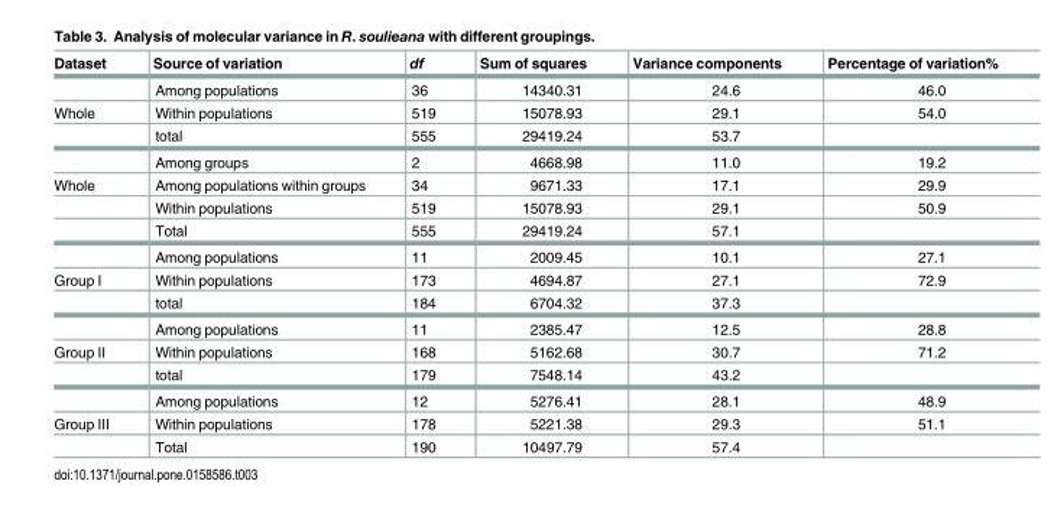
<table><thead><tr><td>Dataset</td><td>Source of variation</td><td>df</td><td>Sum of squares</td><td>Variance components</td><td>Percentage of variation%</td></tr></thead><tbody><tr><td></td><td>Among populations</td><td>36</td><td>14340.31</td><td>24.6</td><td>46.0</td></tr><tr><td rowspan="3">Whole</td><td>Within populations</td><td>519</td><td>15078.93</td><td>29.1</td><td>54.0</td></tr><tr><td>total</td><td>555</td><td>29419.24</td><td>53.7</td><td></td></tr><tr><td>Among groups</td><td>2</td><td>4668.98</td><td>11.0</td><td>19.2</td></tr><tr><td rowspan="4">Whole</td><td>Among populations within groups</td><td>34</td><td>9671.33</td><td>17.1</td><td>29.9</td></tr><tr><td>Within populations</td><td>519</td><td>15078.93</td><td>29.1</td><td>50.9</td></tr><tr><td>Total</td><td>555</td><td>29419.24</td><td>57.1</td><td></td></tr><tr><td>Among populations</td><td>11</td><td>2009.45</td><td>10.1</td><td>27.1</td></tr><tr><td rowspan="3">Group I</td><td>Within populations</td><td>173</td><td>4694.87</td><td>27.1</td><td>72.9</td></tr><tr><td>total</td><td>184</td><td>6704.32</td><td>37.3</td><td></td></tr><tr><td>Among populations</td><td>11</td><td>2385.47</td><td>12.5</td><td>28.8</td></tr><tr><td rowspan="3">Group II</td><td>Within populations</td><td>168</td><td>5162.68</td><td>30.7</td><td>71.2</td></tr><tr><td>total</td><td>179</td><td>7548.14</td><td>43.2</td><td></td></tr><tr><td>Among populations</td><td>12</td><td>5276.41</td><td>28.1</td><td>48.9</td></tr><tr><td rowspan="2">Group III</td><td>Within populations</td><td>178</td><td>5221.38</td><td>29.3</td><td>51.1</td></tr><tr><td>Total</td><td>190</td><td>10497.79</td><td>57.4</td><td></td></tr></tbody></table>